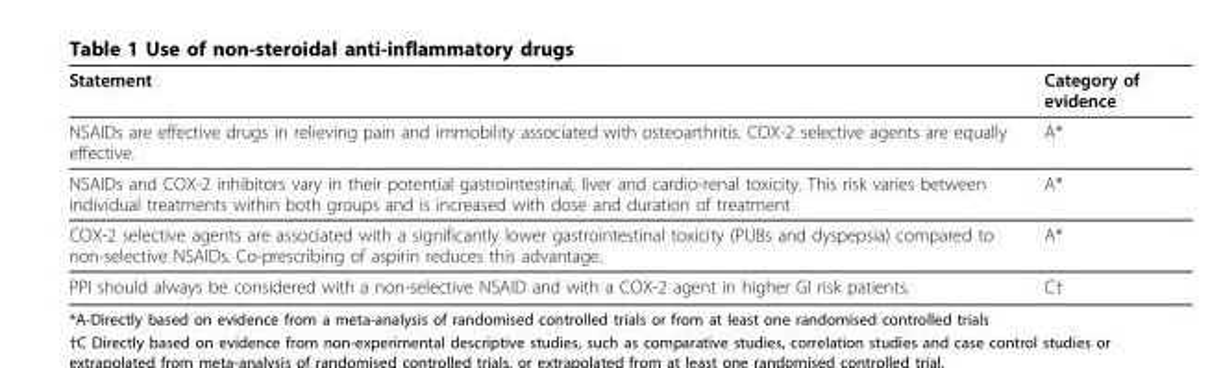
<table><thead><tr><td>Statement</td><td>Category of evidence</td></tr></thead><tbody><tr><td>NSAIDs are effective drugs in relieving pain and immobility associated with osteoarthritis. COX-2 selective agents are equally effective.</td><td>A*</td></tr><tr><td>NSAIDs and COX-2 inhibitors vary in their potential gastrointestinal, liver and cardio-renal toxicity. This risk varies between individual treatments within both groups and is increased with dose and duration of treatment</td><td>A*</td></tr><tr><td>COX-2 selective agents are associated with a significantly lower gastrointestinal toxicity (PUBs and dyspepsia) compared to non-selective NSAIDs. Co-prescribing of aspirin reduces this advantage.</td><td>A*</td></tr><tr><td>PPI should always be considered with a non-selective NSAID and with a COX-2 agent in higher GI risk patients.</td><td>C†</td></tr></tbody></table>